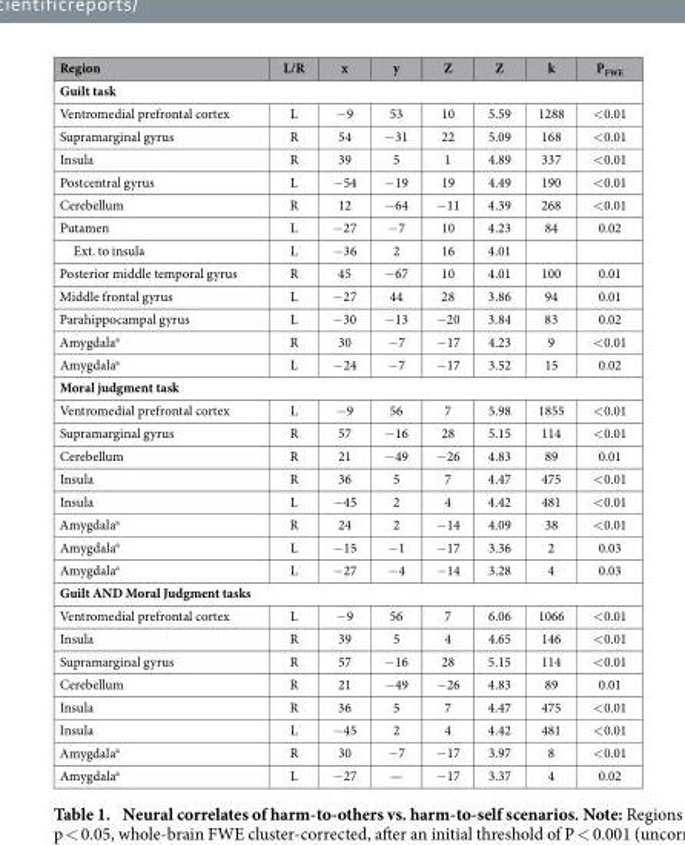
<table><thead><tr><td>Region</td><td>L/R</td><td>x</td><td>y</td><td>Z</td><td>Z</td><td>k</td><td>P<sub>FWE</sub></td></tr></thead><tbody><tr><td colspan="8">Guilt task</td></tr><tr><td>Ventromedial prefrontal cortex</td><td>L</td><td>− 9</td><td>53</td><td>10</td><td>5.59</td><td>1288</td><td>&lt; 0.01</td></tr><tr><td>Supramarginal gyrus</td><td>R</td><td>54</td><td>− 31</td><td>22</td><td>5.09</td><td>168</td><td>&lt; 0.01</td></tr><tr><td>Insula</td><td>R</td><td>39</td><td>5</td><td>1</td><td>4.89</td><td>337</td><td>&lt; 0.01</td></tr><tr><td>Postcentral gyrus</td><td>L</td><td>− 54</td><td>− 19</td><td>19</td><td>4.49</td><td>190</td><td>&lt; 0.01</td></tr><tr><td>Cerebellum</td><td>R</td><td>12</td><td>− 64</td><td>− 11</td><td>4.39</td><td>268</td><td>&lt; 0.01</td></tr><tr><td>Putamen</td><td>L</td><td>− 27</td><td>− 7</td><td>10</td><td>4.23</td><td>84</td><td>0.02</td></tr><tr><td>Ext. to insula</td><td>L</td><td>− 36</td><td>2</td><td>16</td><td>4.01</td><td></td><td></td></tr><tr><td>Posterior middle temporal gyrus</td><td>R</td><td>45</td><td>− 67</td><td>10</td><td>4.01</td><td>100</td><td>0.01</td></tr><tr><td>Middle frontal gyrus</td><td>L</td><td>− 27</td><td>44</td><td>28</td><td>3.86</td><td>94</td><td>0.01</td></tr><tr><td>Parahippocampal gyrus</td><td>L</td><td>− 30</td><td>− 13</td><td>− 20</td><td>3.84</td><td>83</td><td>0.02</td></tr><tr><td>Amygdala<sup>a</sup></td><td>R</td><td>30</td><td>− 7</td><td>− 17</td><td>4.23</td><td>9</td><td>&lt; 0.01</td></tr><tr><td>Amygdala<sup>a</sup></td><td>L</td><td>− 24</td><td>− 7</td><td>− 17</td><td>3.52</td><td>15</td><td>0.02</td></tr><tr><td colspan="8">Moral judgment task</td></tr><tr><td>Ventromedial prefrontal cortex</td><td>L</td><td>− 9</td><td>56</td><td>7</td><td>5.98</td><td>1855</td><td>&lt; 0.01</td></tr><tr><td>Supramarginal gyrus</td><td>R</td><td>57</td><td>− 16</td><td>28</td><td>5.15</td><td>114</td><td>&lt; 0.01</td></tr><tr><td>Cerebellum</td><td>R</td><td>21</td><td>− 49</td><td>− 26</td><td>4.83</td><td>89</td><td>0.01</td></tr><tr><td>Insula</td><td>R</td><td>36</td><td>5</td><td>7</td><td>4.47</td><td>475</td><td>&lt; 0.01</td></tr><tr><td>Insula</td><td>L</td><td>− 45</td><td>2</td><td>4</td><td>4.42</td><td>481</td><td>&lt; 0.01</td></tr><tr><td>Amygdala<sup>a</sup></td><td>R</td><td>24</td><td>2</td><td>− 14</td><td>4.09</td><td>38</td><td>&lt; 0.01</td></tr><tr><td>Amygdala<sup>a</sup></td><td>L</td><td>− 15</td><td>− 1</td><td>− 17</td><td>3.36</td><td>2</td><td>0.03</td></tr><tr><td>Amygdala<sup>a</sup></td><td>L</td><td>− 27</td><td>− 4</td><td>− 14</td><td>3.28</td><td>4</td><td>0.03</td></tr><tr><td colspan="8">Guilt AND Moral Judgment tasks</td></tr><tr><td>Ventromedial prefrontal cortex</td><td>L</td><td>− 9</td><td>56</td><td>7</td><td>6.06</td><td>1066</td><td>&lt; 0.01</td></tr><tr><td>Insula</td><td>R</td><td>39</td><td>5</td><td>4</td><td>4.65</td><td>146</td><td>&lt; 0.01</td></tr><tr><td>Supramarginal gyrus</td><td>R</td><td>57</td><td>− 16</td><td>28</td><td>5.15</td><td>114</td><td>&lt; 0.01</td></tr><tr><td>Cerebellum</td><td>R</td><td>21</td><td>− 49</td><td>− 26</td><td>4.83</td><td>89</td><td>0.01</td></tr><tr><td>Insula</td><td>R</td><td>36</td><td>5</td><td>7</td><td>4.47</td><td>475</td><td>&lt; 0.01</td></tr><tr><td>Insula</td><td>L</td><td>− 45</td><td>2</td><td>4</td><td>4.42</td><td>481</td><td>&lt; 0.01</td></tr><tr><td>Amygdala<sup>a</sup></td><td>R</td><td>30</td><td>− 7</td><td>− 17</td><td>3.97</td><td>8</td><td>&lt; 0.01</td></tr><tr><td>Amygdala<sup>a</sup></td><td>L</td><td>− 27</td><td>—</td><td>− 17</td><td>3.37</td><td>4</td><td>0.02</td></tr></tbody></table>